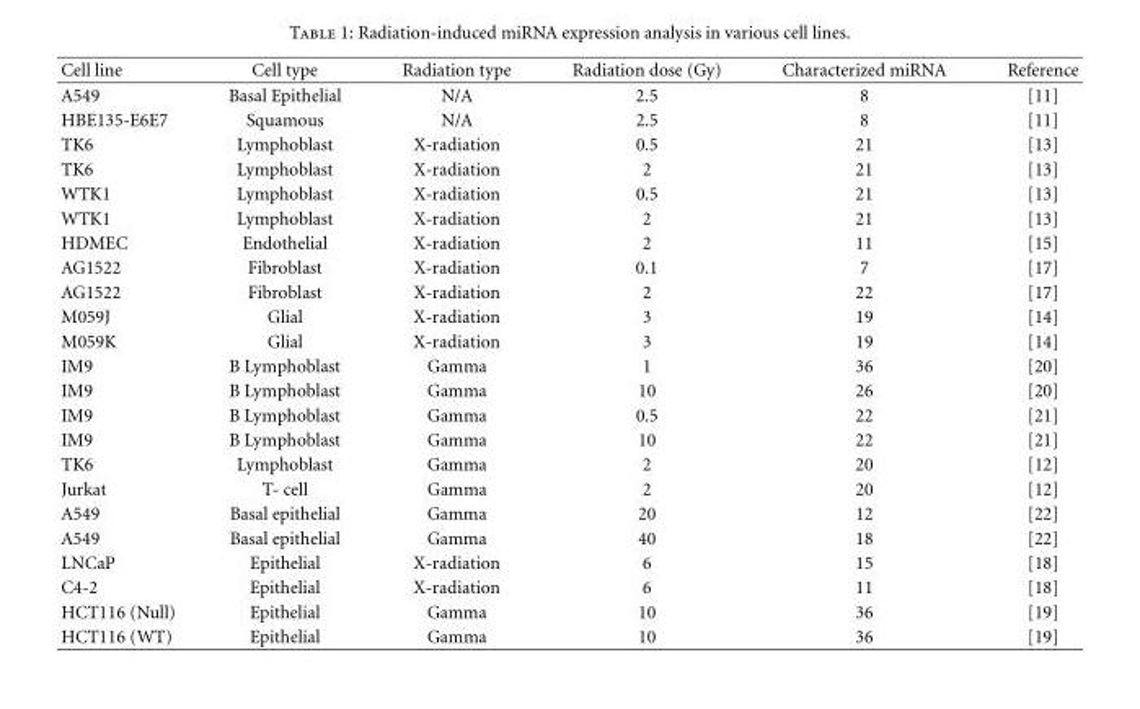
<table><thead><tr><td>Cell line</td><td>Cell type</td><td>Radiation type</td><td>Radiation dose (Gy)</td><td>Characterized miRNA</td><td>Reference</td></tr></thead><tbody><tr><td>A549</td><td>Basal Epithelial</td><td>N/A</td><td>2.5</td><td>8</td><td>[11]</td></tr><tr><td>HBE135-E6E7</td><td>Squamous</td><td>N/A</td><td>2.5</td><td>8</td><td>[11]</td></tr><tr><td>TK6</td><td>Lymphoblast</td><td>X-radiation</td><td>0.5</td><td>21</td><td>[13]</td></tr><tr><td>TK6</td><td>Lymphoblast</td><td>X-radiation</td><td>2</td><td>21</td><td>[13]</td></tr><tr><td>WTK1</td><td>Lymphoblast</td><td>X-radiation</td><td>0.5</td><td>21</td><td>[13]</td></tr><tr><td>WTK1</td><td>Lymphoblast</td><td>X-radiation</td><td>2</td><td>21</td><td>[13]</td></tr><tr><td>HDMEC</td><td>Endothelial</td><td>X-radiation</td><td>2</td><td>11</td><td>[15]</td></tr><tr><td>AG1522</td><td>Fibroblast</td><td>X-radiation</td><td>0.1</td><td>7</td><td>[17]</td></tr><tr><td>AG1522</td><td>Fibroblast</td><td>X-radiation</td><td>2</td><td>22</td><td>[17]</td></tr><tr><td>M059J</td><td>Glial</td><td>X-radiation</td><td>3</td><td>19</td><td>[14]</td></tr><tr><td>M059K</td><td>Glial</td><td>X-radiation</td><td>3</td><td>19</td><td>[14]</td></tr><tr><td>IM9</td><td>B Lymphoblast</td><td>Gamma</td><td>1</td><td>36</td><td>[20]</td></tr><tr><td>IM9</td><td>B Lymphoblast</td><td>Gamma</td><td>10</td><td>26</td><td>[20]</td></tr><tr><td>IM9</td><td>B Lymphoblast</td><td>Gamma</td><td>0.5</td><td>22</td><td>[21]</td></tr><tr><td>IM9</td><td>B Lymphoblast</td><td>Gamma</td><td>10</td><td>22</td><td>[21]</td></tr><tr><td>TK6</td><td>Lymphoblast</td><td>Gamma</td><td>2</td><td>20</td><td>[12]</td></tr><tr><td>Jurkat</td><td>T- cell</td><td>Gamma</td><td>2</td><td>20</td><td>[12]</td></tr><tr><td>A549</td><td>Basal epithelial</td><td>Gamma</td><td>20</td><td>12</td><td>[22]</td></tr><tr><td>A549</td><td>Basal epithelial</td><td>Gamma</td><td>40</td><td>18</td><td>[22]</td></tr><tr><td>LNCaP</td><td>Epithelial</td><td>X-radiation</td><td>6</td><td>15</td><td>[18]</td></tr><tr><td>C4-2</td><td>Epithelial</td><td>X-radiation</td><td>6</td><td>11</td><td>[18]</td></tr><tr><td>HCT116 (Null)</td><td>Epithelial</td><td>Gamma</td><td>10</td><td>36</td><td>[19]</td></tr><tr><td>HCT116 (WT)</td><td>Epithelial</td><td>Gamma</td><td>10</td><td>36</td><td>[19]</td></tr></tbody></table>